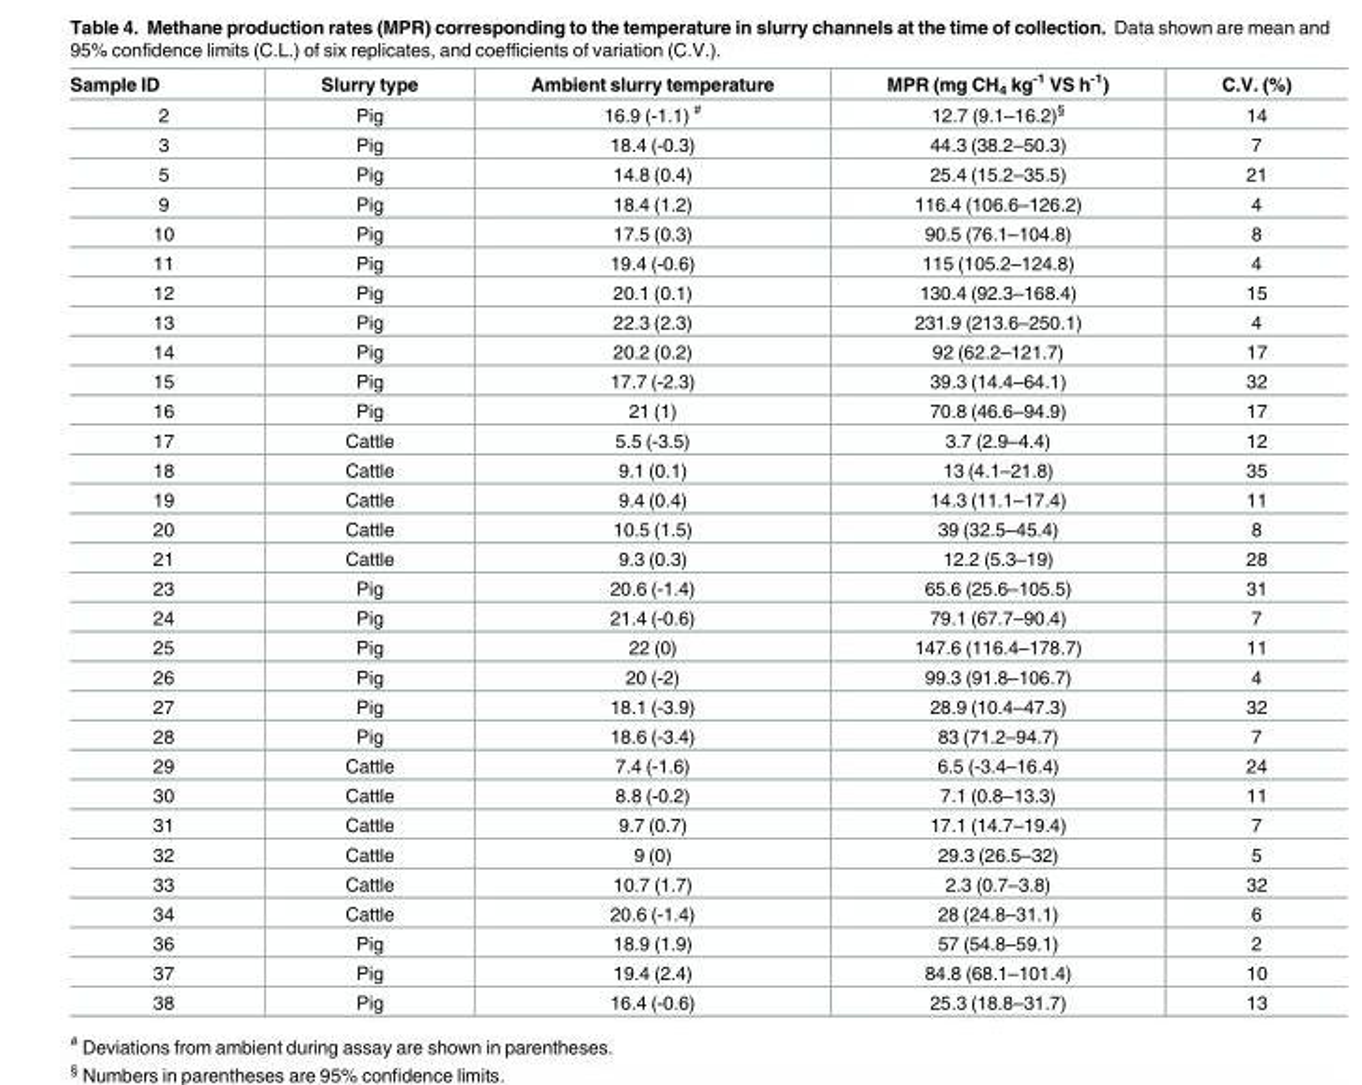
<table><thead><tr><td>Sample ID</td><td>Slurry type</td><td>Ambient slurry temperature</td><td>MPR (mg CH<sub>4</sub> kg<sup>-1</sup> VS h<sup>-1</sup>)</td><td>C.V. (%)</td></tr></thead><tbody><tr><td>2</td><td>Pig</td><td>16.9 (-1.1) <sup>#</sup></td><td>12.7 (9.1–16.2)<sup>§</sup></td><td>14</td></tr><tr><td>3</td><td>Pig</td><td>18.4 (-0.3)</td><td>44.3 (38.2–50.3)</td><td>7</td></tr><tr><td>5</td><td>Pig</td><td>14.8 (0.4)</td><td>25.4 (15.2–35.5)</td><td>21</td></tr><tr><td>9</td><td>Pig</td><td>18.4 (1.2)</td><td>116.4 (106.6–126.2)</td><td>4</td></tr><tr><td>10</td><td>Pig</td><td>17.5 (0.3)</td><td>90.5 (76.1–104.8)</td><td>8</td></tr><tr><td>11</td><td>Pig</td><td>19.4 (-0.6)</td><td>115 (105.2–124.8)</td><td>4</td></tr><tr><td>12</td><td>Pig</td><td>20.1 (0.1)</td><td>130.4 (92.3–168.4)</td><td>15</td></tr><tr><td>13</td><td>Pig</td><td>22.3 (2.3)</td><td>231.9 (213.6–250.1)</td><td>4</td></tr><tr><td>14</td><td>Pig</td><td>20.2 (0.2)</td><td>92 (62.2–121.7)</td><td>17</td></tr><tr><td>15</td><td>Pig</td><td>17.7 (-2.3)</td><td>39.3 (14.4–64.1)</td><td>32</td></tr><tr><td>16</td><td>Pig</td><td>21 (1)</td><td>70.8 (46.6–94.9)</td><td>17</td></tr><tr><td>17</td><td>Cattle</td><td>5.5 (-3.5)</td><td>3.7 (2.9–4.4)</td><td>12</td></tr><tr><td>18</td><td>Cattle</td><td>9.1 (0.1)</td><td>13 (4.1–21.8)</td><td>35</td></tr><tr><td>19</td><td>Cattle</td><td>9.4 (0.4)</td><td>14.3 (11.1–17.4)</td><td>11</td></tr><tr><td>20</td><td>Cattle</td><td>10.5 (1.5)</td><td>39 (32.5–45.4)</td><td>8</td></tr><tr><td>21</td><td>Cattle</td><td>9.3 (0.3)</td><td>12.2 (5.3–19)</td><td>28</td></tr><tr><td>23</td><td>Pig</td><td>20.6 (-1.4)</td><td>65.6 (25.6–105.5)</td><td>31</td></tr><tr><td>24</td><td>Pig</td><td>21.4 (-0.6)</td><td>79.1 (67.7–90.4)</td><td>7</td></tr><tr><td>25</td><td>Pig</td><td>22 (0)</td><td>147.6 (116.4–178.7)</td><td>11</td></tr><tr><td>26</td><td>Pig</td><td>20 (-2)</td><td>99.3 (91.8–106.7)</td><td>4</td></tr><tr><td>27</td><td>Pig</td><td>18.1 (-3.9)</td><td>28.9 (10.4–47.3)</td><td>32</td></tr><tr><td>28</td><td>Pig</td><td>18.6 (-3.4)</td><td>83 (71.2–94.7)</td><td>7</td></tr><tr><td>29</td><td>Cattle</td><td>7.4 (-1.6)</td><td>6.5 (-3.4–16.4)</td><td>24</td></tr><tr><td>30</td><td>Cattle</td><td>8.8 (-0.2)</td><td>7.1 (0.8–13.3)</td><td>11</td></tr><tr><td>31</td><td>Cattle</td><td>9.7 (0.7)</td><td>17.1 (14.7–19.4)</td><td>7</td></tr><tr><td>32</td><td>Cattle</td><td>9 (0)</td><td>29.3 (26.5–32)</td><td>5</td></tr><tr><td>33</td><td>Cattle</td><td>10.7 (1.7)</td><td>2.3 (0.7–3.8)</td><td>32</td></tr><tr><td>34</td><td>Cattle</td><td>20.6 (-1.4)</td><td>28 (24.8–31.1)</td><td>6</td></tr><tr><td>36</td><td>Pig</td><td>18.9 (1.9)</td><td>57 (54.8–59.1)</td><td>2</td></tr><tr><td>37</td><td>Pig</td><td>19.4 (2.4)</td><td>84.8 (68.1–101.4)</td><td>10</td></tr><tr><td>38</td><td>Pig</td><td>16.4 (-0.6)</td><td>25.3 (18.8–31.7)</td><td>13</td></tr></tbody></table>